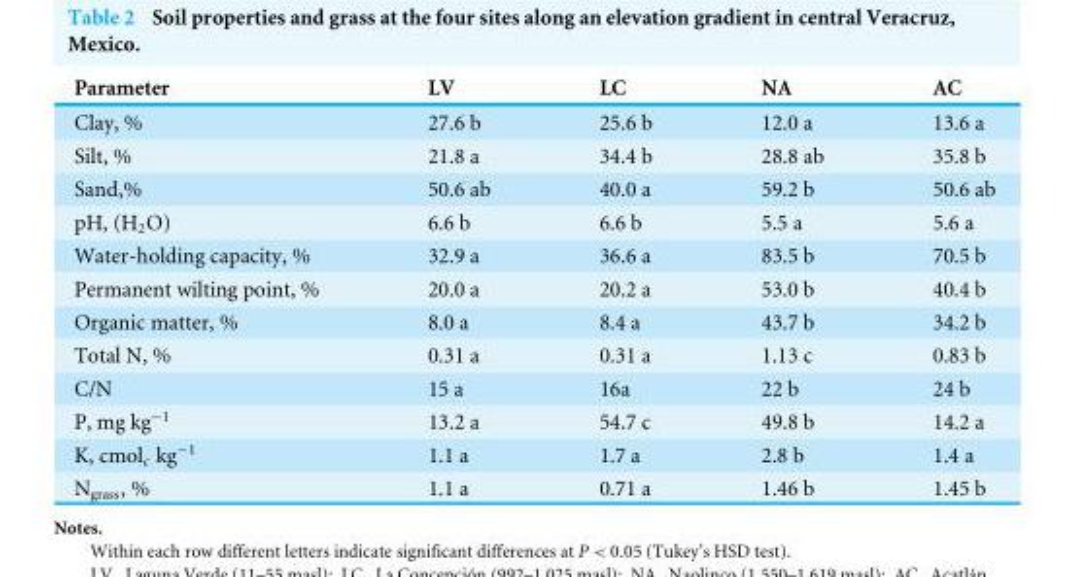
<table><thead><tr><td>Parameter</td><td>LV</td><td>LC</td><td>NA</td><td>AC</td></tr></thead><tbody><tr><td>Clay, %</td><td>27.6 b</td><td>25.6 b</td><td>12.0 a</td><td>13.6 a</td></tr><tr><td>Silt, %</td><td>21.8 a</td><td>34.4 b</td><td>28.8 ab</td><td>35.8 b</td></tr><tr><td>Sand,%</td><td>50.6 ab</td><td>40.0 a</td><td>59.2 b</td><td>50.6 ab</td></tr><tr><td>pH, (H<sub>2</sub>O)</td><td>6.6 b</td><td>6.6 b</td><td>5.5 a</td><td>5.6 a</td></tr><tr><td>Water-holding capacity, %</td><td>32.9 a</td><td>36.6 a</td><td>83.5 b</td><td>70.5 b</td></tr><tr><td>Permanent wilting point, %</td><td>20.0 a</td><td>20.2 a</td><td>53.0 b</td><td>40.4 b</td></tr><tr><td>Organic matter, %</td><td>8.0 a</td><td>8.4 a</td><td>43.7 b</td><td>34.2 b</td></tr><tr><td>Total N, %</td><td>0.31 a</td><td>0.31 a</td><td>1.13 c</td><td>0.83 b</td></tr><tr><td>C/N</td><td>15 a</td><td>16a</td><td>22 b</td><td>24 b</td></tr><tr><td>P, mg kg<sup>−1</sup></td><td>13.2 a</td><td>54.7 c</td><td>49.8 b</td><td>14.2 a</td></tr><tr><td>K, cmol<sub>c</sub> kg<sup>−1</sup></td><td>1.1 a</td><td>1.7 a</td><td>2.8 b</td><td>1.4 a</td></tr><tr><td>N<sub>grass</sub>, %</td><td>1.1 a</td><td>0.71 a</td><td>1.46 b</td><td>1.45 b</td></tr></tbody></table>